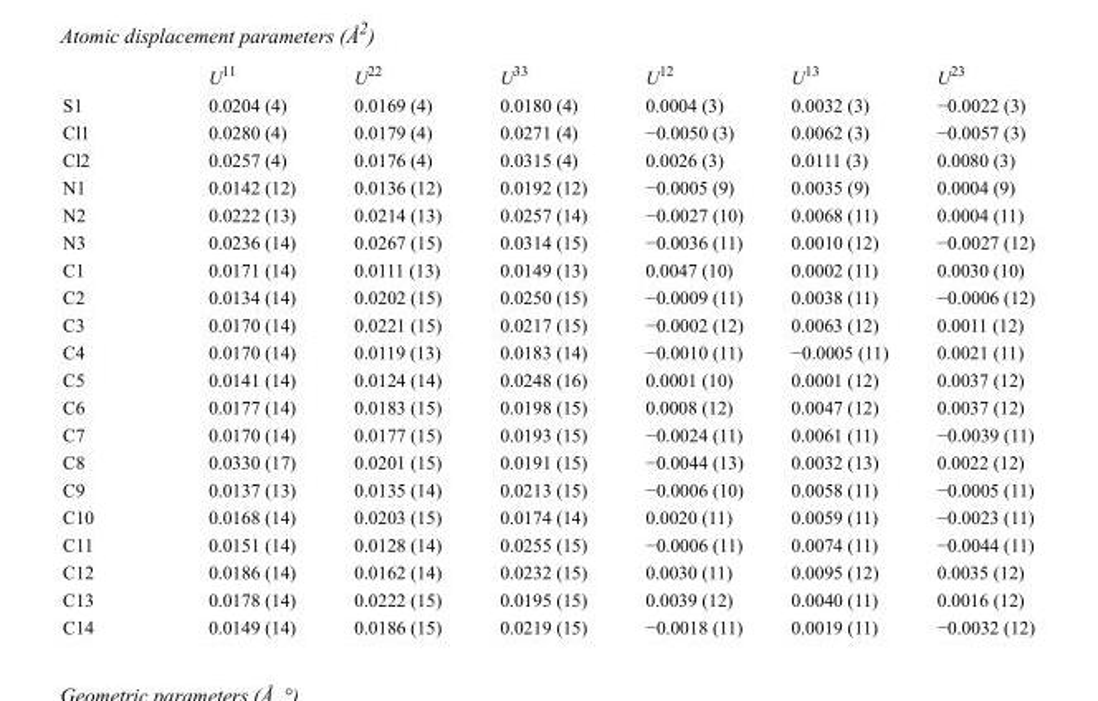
<table><thead><tr><td></td><td>U<sup>11</sup></td><td>U<sup>22</sup></td><td>U<sup>33</sup></td><td>U<sup>12</sup></td><td>U<sup>13</sup></td><td>U<sup>23</sup></td></tr></thead><tbody><tr><td>S1</td><td>0.0204 (4)</td><td>0.0169 (4)</td><td>0.0180 (4)</td><td>0.0004 (3)</td><td>0.0032 (3)</td><td>−0.0022 (3)</td></tr><tr><td>Cl1</td><td>0.0280 (4)</td><td>0.0179 (4)</td><td>0.0271 (4)</td><td>−0.0050 (3)</td><td>0.0062 (3)</td><td>−0.0057 (3)</td></tr><tr><td>Cl2</td><td>0.0257 (4)</td><td>0.0176 (4)</td><td>0.0315 (4)</td><td>0.0026 (3)</td><td>0.0111 (3)</td><td>0.0080 (3)</td></tr><tr><td>N1</td><td>0.0142 (12)</td><td>0.0136 (12)</td><td>0.0192 (12)</td><td>−0.0005 (9)</td><td>0.0035 (9)</td><td>0.0004 (9)</td></tr><tr><td>N2</td><td>0.0222 (13)</td><td>0.0214 (13)</td><td>0.0257 (14)</td><td>−0.0027 (10)</td><td>0.0068 (11)</td><td>0.0004 (11)</td></tr><tr><td>N3</td><td>0.0236 (14)</td><td>0.0267 (15)</td><td>0.0314 (15)</td><td>−0.0036 (11)</td><td>0.0010 (12)</td><td>−0.0027 (12)</td></tr><tr><td>C1</td><td>0.0171 (14)</td><td>0.0111 (13)</td><td>0.0149 (13)</td><td>0.0047 (10)</td><td>0.0002 (11)</td><td>0.0030 (10)</td></tr><tr><td>C2</td><td>0.0134 (14)</td><td>0.0202 (15)</td><td>0.0250 (15)</td><td>−0.0009 (11)</td><td>0.0038 (11)</td><td>−0.0006 (12)</td></tr><tr><td>C3</td><td>0.0170 (14)</td><td>0.0221 (15)</td><td>0.0217 (15)</td><td>−0.0002 (12)</td><td>0.0063 (12)</td><td>0.0011 (12)</td></tr><tr><td>C4</td><td>0.0170 (14)</td><td>0.0119 (13)</td><td>0.0183 (14)</td><td>−0.0010 (11)</td><td>−0.0005 (11)</td><td>0.0021 (11)</td></tr><tr><td>C5</td><td>0.0141 (14)</td><td>0.0124 (14)</td><td>0.0248 (16)</td><td>0.0001 (10)</td><td>0.0001 (12)</td><td>0.0037 (12)</td></tr><tr><td>C6</td><td>0.0177 (14)</td><td>0.0183 (15)</td><td>0.0198 (15)</td><td>0.0008 (12)</td><td>0.0047 (12)</td><td>0.0037 (12)</td></tr><tr><td>C7</td><td>0.0170 (14)</td><td>0.0177 (15)</td><td>0.0193 (15)</td><td>−0.0024 (11)</td><td>0.0061 (11)</td><td>−0.0039 (11)</td></tr><tr><td>C8</td><td>0.0330 (17)</td><td>0.0201 (15)</td><td>0.0191 (15)</td><td>−0.0044 (13)</td><td>0.0032 (13)</td><td>0.0022 (12)</td></tr><tr><td>C9</td><td>0.0137 (13)</td><td>0.0135 (14)</td><td>0.0213 (15)</td><td>−0.0006 (10)</td><td>0.0058 (11)</td><td>−0.0005 (11)</td></tr><tr><td>C10</td><td>0.0168 (14)</td><td>0.0203 (15)</td><td>0.0174 (14)</td><td>0.0020 (11)</td><td>0.0059 (11)</td><td>−0.0023 (11)</td></tr><tr><td>C11</td><td>0.0151 (14)</td><td>0.0128 (14)</td><td>0.0255 (15)</td><td>−0.0006 (11)</td><td>0.0074 (11)</td><td>−0.0044 (11)</td></tr><tr><td>C12</td><td>0.0186 (14)</td><td>0.0162 (14)</td><td>0.0232 (15)</td><td>0.0030 (11)</td><td>0.0095 (12)</td><td>0.0035 (12)</td></tr><tr><td>C13</td><td>0.0178 (14)</td><td>0.0222 (15)</td><td>0.0195 (15)</td><td>0.0039 (12)</td><td>0.0040 (11)</td><td>0.0016 (12)</td></tr><tr><td>C14</td><td>0.0149 (14)</td><td>0.0186 (15)</td><td>0.0219 (15)</td><td>−0.0018 (11)</td><td>0.0019 (11)</td><td>−0.0032 (12)</td></tr></tbody></table>